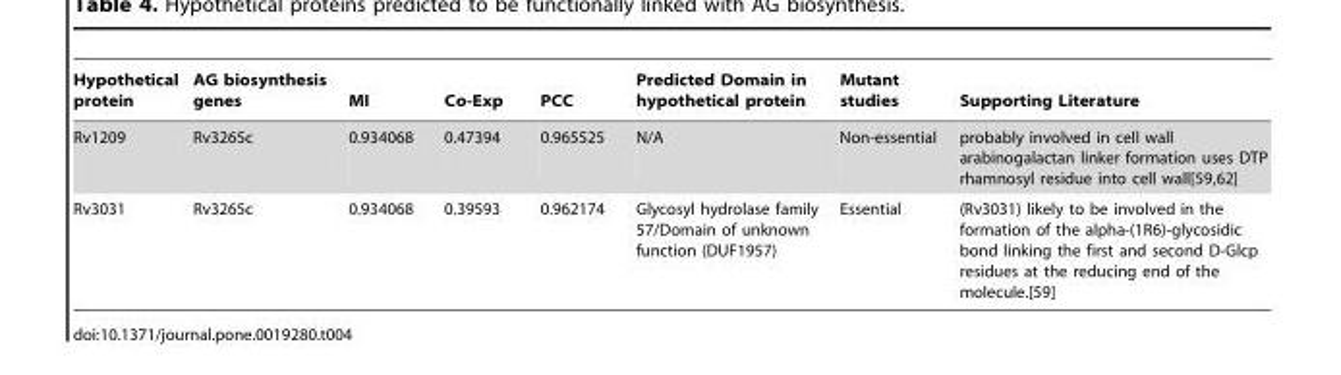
<table><thead><tr><td>Hypothetical protein</td><td>AG biosynthesis genes</td><td>MI</td><td>Co-Exp</td><td>PCC</td><td>Predicted Domain in hypothetical protein</td><td>Mutant studies</td><td>Supporting Literature</td></tr></thead><tbody><tr><td>Rv1209</td><td>Rv3265c</td><td>0.934068</td><td>0.47394</td><td>0.965525</td><td>N/A</td><td>Non-essential</td><td>probably involved in cell wall arabinogalactan linker formation uses DTP rhamnosyl residue into cell wall[59,62]</td></tr><tr><td>Rv3031</td><td>Rv3265c</td><td>0.934068</td><td>0.39593</td><td>0.962174</td><td>Glycosyl hydrolase family 57/Domain of unknown function (DUF1957)</td><td>Essential</td><td>(Rv3031) likely to be involved in the formation of the alpha-(1R6)-glycosidic bond linking the first and second D-Glcp residues at the reducing end of the molecule.[59]</td></tr></tbody></table>